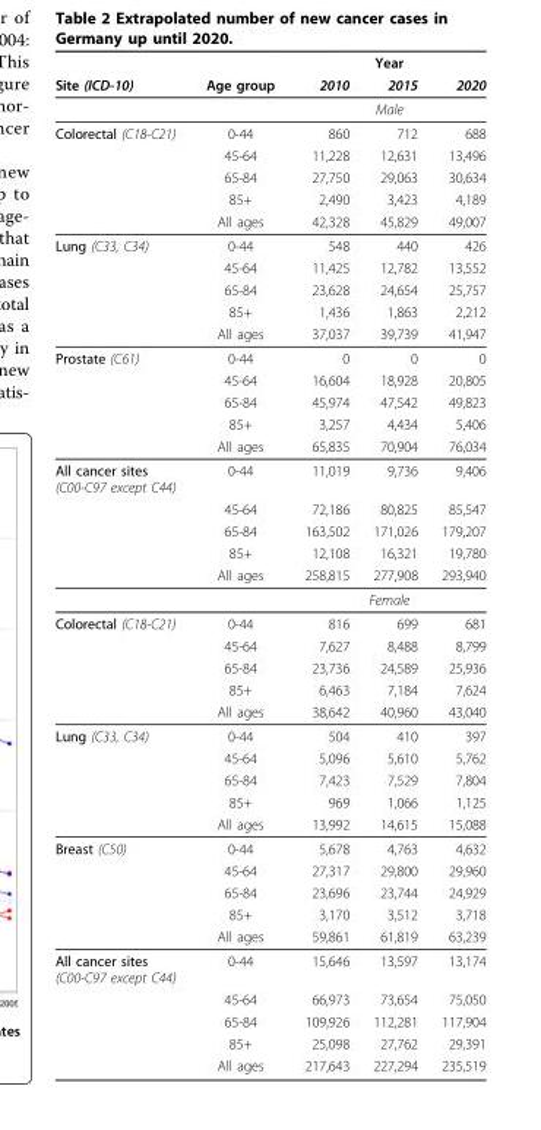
<table><thead><tr><td rowspan="2">Site (ICD-10)</td><td rowspan="2">Age group</td><td colspan="3">Year</td></tr><tr><td>2010</td><td>2015</td><td>2020</td></tr></thead><tbody><tr><td></td><td></td><td colspan="3">Male</td></tr><tr><td rowspan="5">Colorectal (C18-C21)</td><td>0-44</td><td>860</td><td>712</td><td>688</td></tr><tr><td>45-64</td><td>11,228</td><td>12,631</td><td>13,496</td></tr><tr><td>65-84</td><td>27,750</td><td>29,063</td><td>30,634</td></tr><tr><td>85+</td><td>2,490</td><td>3,423</td><td>4,189</td></tr><tr><td>All ages</td><td>42,328</td><td>45,829</td><td>49,007</td></tr><tr><td rowspan="5">Lung (C33, C34)</td><td>0-44</td><td>548</td><td>440</td><td>426</td></tr><tr><td>45-64</td><td>11,425</td><td>12,782</td><td>13,552</td></tr><tr><td>65-84</td><td>23,628</td><td>24,654</td><td>25,757</td></tr><tr><td>85+</td><td>1,436</td><td>1,863</td><td>2,212</td></tr><tr><td>All ages</td><td>37,037</td><td>39,739</td><td>41,947</td></tr><tr><td rowspan="5">Prostate (C61)</td><td>0-44</td><td>0</td><td>0</td><td>0</td></tr><tr><td>45-64</td><td>16,604</td><td>18,928</td><td>20,805</td></tr><tr><td>65-84</td><td>45,974</td><td>47,542</td><td>49,823</td></tr><tr><td>85+</td><td>3,257</td><td>4,434</td><td>5,406</td></tr><tr><td>All ages</td><td>65,835</td><td>70,904</td><td>76,034</td></tr><tr><td rowspan="6">All cancer sites (C00-C97 except C44)</td><td>0-44</td><td>11,019</td><td>9,736</td><td>9,406</td></tr><tr><td>45-64</td><td>72,186</td><td>80,825</td><td>85,547</td></tr><tr><td>65-84</td><td>163,502</td><td>171,026</td><td>179,207</td></tr><tr><td>85+</td><td>12,108</td><td>16,321</td><td>19,780</td></tr><tr><td>All ages</td><td>258,815</td><td>277,908</td><td>293,940</td></tr><tr><td></td><td colspan="3">Female</td></tr><tr><td rowspan="5">Colorectal (C18-C21)</td><td>0-44</td><td>816</td><td>699</td><td>681</td></tr><tr><td>45-64</td><td>7,627</td><td>8,488</td><td>8,799</td></tr><tr><td>65-84</td><td>23,736</td><td>24,589</td><td>25,936</td></tr><tr><td>85+</td><td>6,463</td><td>7,184</td><td>7,624</td></tr><tr><td>All ages</td><td>38,642</td><td>40,960</td><td>43,040</td></tr><tr><td rowspan="5">Lung (C33, C34)</td><td>0-44</td><td>504</td><td>410</td><td>397</td></tr><tr><td>45-64</td><td>5,096</td><td>5,610</td><td>5,762</td></tr><tr><td>65-84</td><td>7,423</td><td>7,529</td><td>7,804</td></tr><tr><td>85+</td><td>969</td><td>1,066</td><td>1,125</td></tr><tr><td>All ages</td><td>13,992</td><td>14,615</td><td>15,088</td></tr><tr><td rowspan="5">Breast (C50)</td><td>0-44</td><td>5,678</td><td>4,763</td><td>4,632</td></tr><tr><td>45-64</td><td>27,317</td><td>29,800</td><td>29,960</td></tr><tr><td>65-84</td><td>23,696</td><td>23,744</td><td>24,929</td></tr><tr><td>85+</td><td>3,170</td><td>3,512</td><td>3,718</td></tr><tr><td>All ages</td><td>59,861</td><td>61,819</td><td>63,239</td></tr><tr><td rowspan="5">All cancer sites (C00-C97 except C44)</td><td>0-44</td><td>15,646</td><td>13,597</td><td>13,174</td></tr><tr><td>45-64</td><td>66,973</td><td>73,654</td><td>75,050</td></tr><tr><td>65-84</td><td>109,926</td><td>112,281</td><td>117,904</td></tr><tr><td>85+</td><td>25,098</td><td>27,762</td><td>29,391</td></tr><tr><td>All ages</td><td>217,643</td><td>227,294</td><td>235,519</td></tr></tbody></table>